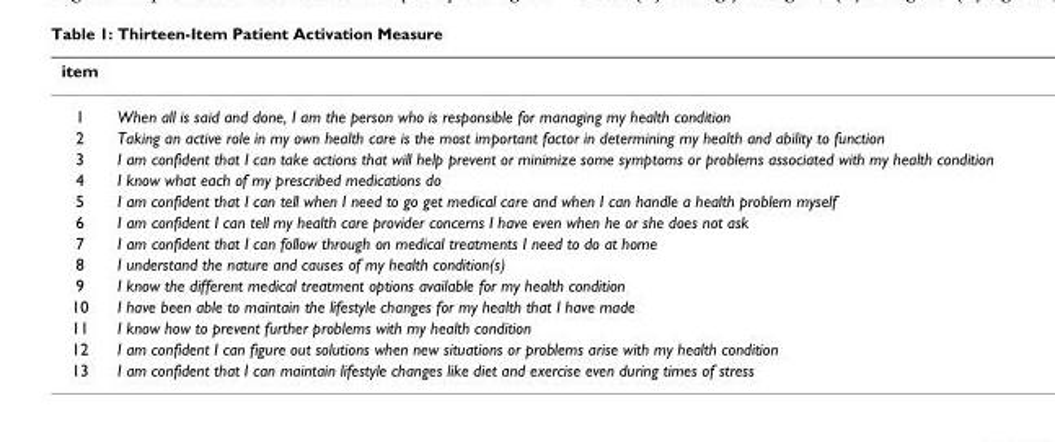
<table><thead><tr><td>item</td><td></td></tr></thead><tbody><tr><td>1</td><td>When all is said and done, I am the person who is responsible for managing my health condition</td></tr><tr><td>2</td><td>Taking an active role in my own health care is the most important factor in determining my health and ability to function</td></tr><tr><td>3</td><td>I am confident that I can take actions that will help prevent or minimize some symptoms or problems associated with my health condition</td></tr><tr><td>4</td><td>I know what each of my prescribed medications do</td></tr><tr><td>5</td><td>I am confident that I can tell when I need to go get medical care and when I can handle a health problem myself</td></tr><tr><td>6</td><td>I am confident I can tell my health care provider concerns I have even when he or she does not ask</td></tr><tr><td>7</td><td>I am confident that I can follow through on medical treatments I need to do at home</td></tr><tr><td>8</td><td>I understand the nature and causes of my health condition(s)</td></tr><tr><td>9</td><td>I know the different medical treatment options available for my health condition</td></tr><tr><td>10</td><td>I have been able to maintain the lifestyle changes for my health that I have made</td></tr><tr><td>11</td><td>I know how to prevent further problems with my health condition</td></tr><tr><td>12</td><td>I am confident I can figure out solutions when new situations or problems arise with my health condition</td></tr><tr><td>13</td><td>I am confident that I can maintain lifestyle changes like diet and exercise even during times of stress</td></tr></tbody></table>